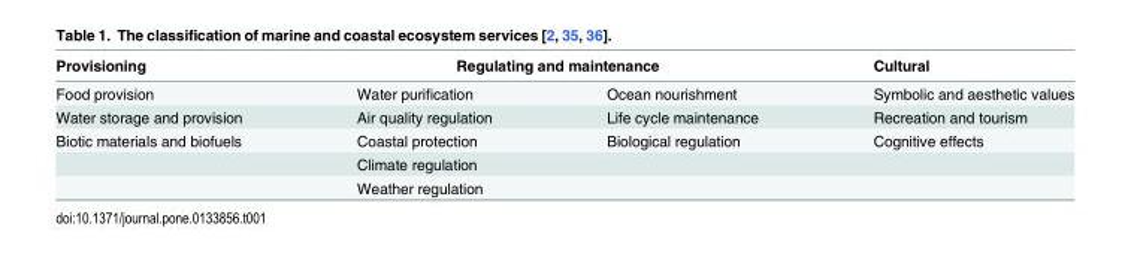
<table><thead><tr><td rowspan="2">Provisioning Food provision</td><td colspan="2">Regulating and maintenance</td><td rowspan="2">Cultural Symbolic and aesthetic values</td></tr><tr><td>Water purification</td><td>Ocean nourishment</td></tr></thead><tbody><tr><td>Water storage and provision</td><td>Air quality regulation</td><td>Life cycle maintenance</td><td>Recreation and tourism</td></tr><tr><td rowspan="3">Biotic materials and biofuels</td><td>Coastal protection</td><td>Biological regulation</td><td>Cognitive effects</td></tr><tr><td>Climate regulation</td><td></td><td></td></tr><tr><td>Weather regulation</td><td></td><td></td></tr></tbody></table>